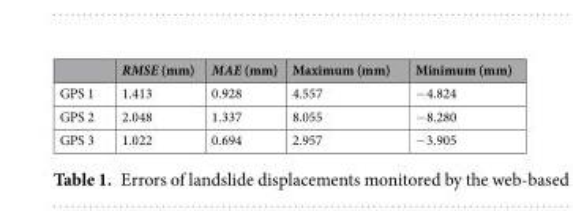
<table><thead><tr><td></td><td>RMSE (mm)</td><td>MAE (mm)</td><td>Maximum (mm)</td><td>Minimum (mm)</td></tr></thead><tbody><tr><td>GPS 1</td><td>1.413</td><td>0.928</td><td>4.557</td><td>−4.824</td></tr><tr><td>GPS 2</td><td>2.048</td><td>1.337</td><td>8.055</td><td>−8.280</td></tr><tr><td>GPS 3</td><td>1.022</td><td>0.694</td><td>2.957</td><td>−3.905</td></tr></tbody></table>